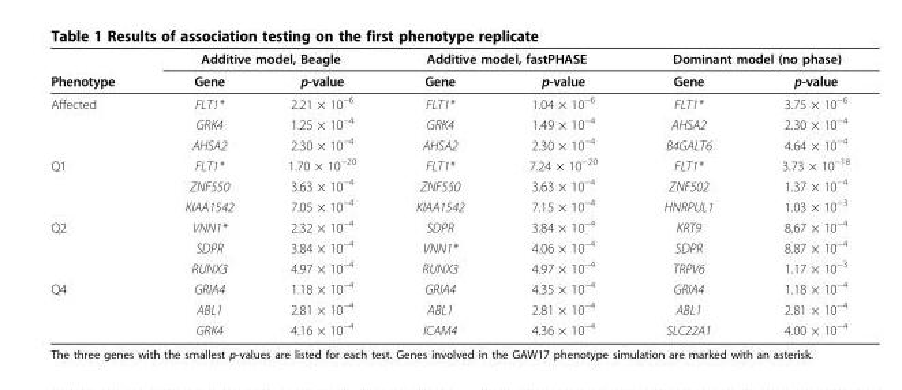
<table><thead><tr><td rowspan="2">Phenotype</td><td colspan="2">Additive model, Beagle</td><td colspan="2">Additive model, fastPHASE</td><td colspan="2">Dominant model (no phase)</td></tr><tr><td>Gene</td><td>p-value</td><td>Gene</td><td>p-value</td><td>Gene</td><td>p-value</td></tr></thead><tbody><tr><td rowspan="3">Affected</td><td>FLT1*</td><td>2.21 × 10<sup>−6</sup></td><td>FLT1*</td><td>1.04 × 10<sup>−6</sup></td><td>FLT1*</td><td>3.75 × 10<sup>−6</sup></td></tr><tr><td>GRK4</td><td>1.25 × 10<sup>−4</sup></td><td>GRK4</td><td>1.49 × 10<sup>−4</sup></td><td>AHSA2</td><td>2.30 × 10<sup>−4</sup></td></tr><tr><td>AHSA2</td><td>2.30 × 10<sup>−4</sup></td><td>AHSA2</td><td>2.30 × 10<sup>−4</sup></td><td>B4GALT6</td><td>4.64 × 10<sup>−4</sup></td></tr><tr><td rowspan="3">Q1</td><td>FLT1*</td><td>1.70 × 10<sup>−20</sup></td><td>FLT1*</td><td>7.24 × 10<sup>−20</sup></td><td>FLT1*</td><td>3.73 × 10<sup>−18</sup></td></tr><tr><td>ZNF550</td><td>3.63 × 10<sup>−4</sup></td><td>ZNF550</td><td>3.63 × 10<sup>−4</sup></td><td>ZNF502</td><td>1.37 × 10<sup>−4</sup></td></tr><tr><td>KIAA1542</td><td>7.05 × 10<sup>−4</sup></td><td>KIAA1542</td><td>7.15 × 10<sup>−4</sup></td><td>HNRPUL1</td><td>1.03 × 10<sup>−3</sup></td></tr><tr><td rowspan="3">Q2</td><td>VNN1*</td><td>2.32 × 10<sup>−4</sup></td><td>SDPR</td><td>3.84 × 10<sup>−4</sup></td><td>KRT9</td><td>8.67 × 10<sup>−4</sup></td></tr><tr><td>SDPR</td><td>3.84 × 10<sup>−4</sup></td><td>VNN1*</td><td>4.06 × 10<sup>−4</sup></td><td>SDPR</td><td>8.87 × 10<sup>−4</sup></td></tr><tr><td>RUNX3</td><td>4.97 × 10<sup>−4</sup></td><td>RUNX3</td><td>4.97 × 10<sup>−4</sup></td><td>TRPV6</td><td>1.17 × 10<sup>−3</sup></td></tr><tr><td rowspan="3">Q4</td><td>GRIA4</td><td>1.18 × 10<sup>−4</sup></td><td>GRIA4</td><td>4.35 × 10<sup>−4</sup></td><td>GRIA4</td><td>1.18 × 10<sup>−4</sup></td></tr><tr><td>ABL1</td><td>2.81 × 10<sup>−4</sup></td><td>ABL1</td><td>2.81 × 10<sup>−4</sup></td><td>ABL1</td><td>2.81 × 10<sup>−4</sup></td></tr><tr><td>GRK4</td><td>4.16 × 10<sup>−4</sup></td><td>ICAM4</td><td>4.36 × 10<sup>−4</sup></td><td>SLC22A1</td><td>4.00 × 10<sup>−4</sup></td></tr></tbody></table>